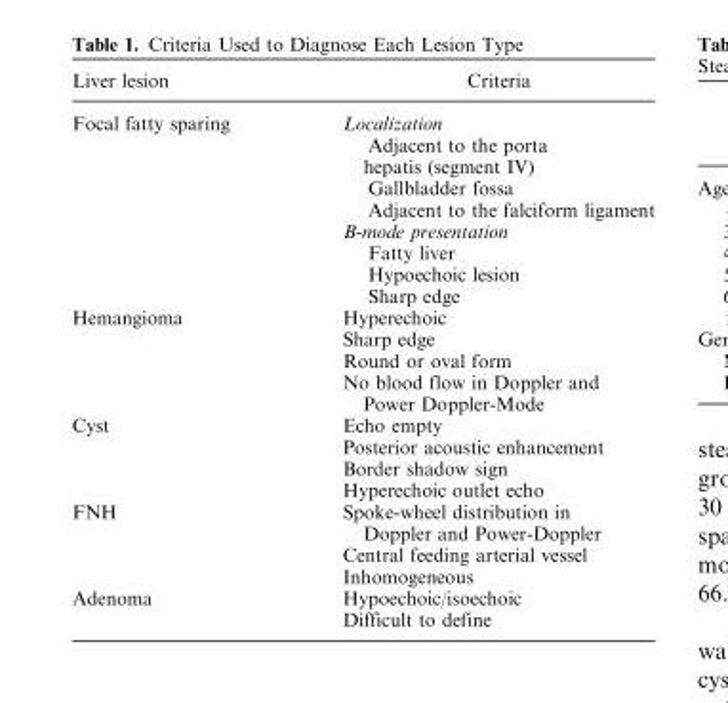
<table><thead><tr><td>Liver lesion</td><td>Criteria</td></tr></thead><tbody><tr><td rowspan="8">Focal fatty sparing</td><td>Localization</td></tr><tr><td>Adjacent to the porta hepatis (segment IV)</td></tr><tr><td>Gallbladder fossa</td></tr><tr><td>Adjacent to the falciform ligament</td></tr><tr><td>B-mode presentation</td></tr><tr><td>Fatty liver</td></tr><tr><td>Hypoechoic lesion</td></tr><tr><td>Sharp edge</td></tr><tr><td rowspan="4">Hemangioma</td><td>Hyperechoic</td></tr><tr><td>Sharp edge</td></tr><tr><td>Round or oval form</td></tr><tr><td>No blood flow in Doppler and Power Doppler-Mode</td></tr><tr><td rowspan="4">Cyst</td><td>Echo empty</td></tr><tr><td>Posterior acoustic enhancement</td></tr><tr><td>Border shadow sign</td></tr><tr><td>Hyperechoic outlet echo</td></tr><tr><td rowspan="3">FNH</td><td>Spoke-wheel distribution in Doppler and Power-Doppler</td></tr><tr><td>Central feeding arterial vessel</td></tr><tr><td>Inhomogeneous</td></tr><tr><td rowspan="2">Adenoma</td><td>Hypoechoic/isoechoic</td></tr><tr><td>Difficult to define</td></tr></tbody></table>